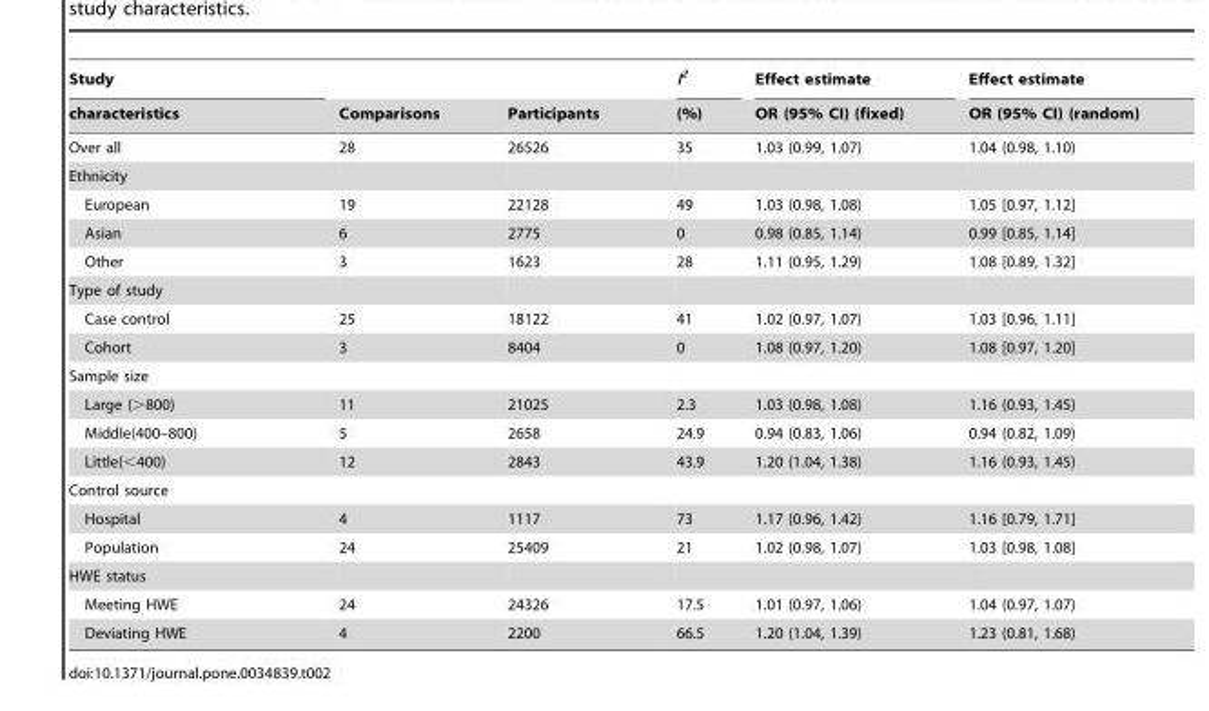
<table><thead><tr><td rowspan="2">Study characteristics</td><td rowspan="2">Comparisons</td><td rowspan="2">Participants</td><td rowspan="2">I<sup>2</sup> (%)</td><td rowspan="2">Effect estimate OR (95% CI) (fixed)</td><td rowspan="2">Effect estimate OR (95% CI) (random)</td></tr><tr></tr></thead><tbody><tr><td>Over all</td><td>28</td><td>26526</td><td>35</td><td>1.03 (0.99, 1.07)</td><td>1.04 (0.98, 1.10)</td></tr><tr><td colspan="6">Ethnicity</td></tr><tr><td>European</td><td>19</td><td>22128</td><td>49</td><td>1.03 (0.98, 1.08)</td><td>1.05 [0.97, 1.12]</td></tr><tr><td>Asian</td><td>6</td><td>2775</td><td>0</td><td>0.98 (0.85, 1.14)</td><td>0.99 [0.85, 1.14]</td></tr><tr><td>Other</td><td>3</td><td>1623</td><td>28</td><td>1.11 (0.95, 1.29)</td><td>1.08 [0.89, 1.32]</td></tr><tr><td colspan="6">Type of study</td></tr><tr><td>Case control</td><td>25</td><td>18122</td><td>41</td><td>1.02 (0.97, 1.07)</td><td>1.03 [0.96, 1.11]</td></tr><tr><td>Cohort</td><td>3</td><td>8404</td><td>0</td><td>1.08 (0.97, 1.20)</td><td>1.08 [0.97, 1.20]</td></tr><tr><td colspan="6">Sample size</td></tr><tr><td>Large (&gt;800)</td><td>11</td><td>21025</td><td>2.3</td><td>1.03 (0.98, 1.08)</td><td>1.16 (0.93, 1.45)</td></tr><tr><td>Middle(400–800)</td><td>5</td><td>2658</td><td>24.9</td><td>0.94 (0.83, 1.06)</td><td>0.94 (0.82, 1.09)</td></tr><tr><td>Little(&lt;400)</td><td>12</td><td>2843</td><td>43.9</td><td>1.20 (1.04, 1.38)</td><td>1.16 (0.93, 1.45)</td></tr><tr><td colspan="6">Control source</td></tr><tr><td>Hospital</td><td>4</td><td>1117</td><td>73</td><td>1.17 (0.96, 1.42)</td><td>1.16 [0.79, 1.71]</td></tr><tr><td>Population</td><td>24</td><td>25409</td><td>21</td><td>1.02 (0.98, 1.07)</td><td>1.03 [0.98, 1.08]</td></tr><tr><td colspan="6">HWE status</td></tr><tr><td>Meeting HWE</td><td>24</td><td>24326</td><td>17.5</td><td>1.01 (0.97, 1.06)</td><td>1.04 (0.97, 1.07)</td></tr><tr><td>Deviating HWE</td><td>4</td><td>2200</td><td>66.5</td><td>1.20 (1.04, 1.39)</td><td>1.23 (0.81, 1.68)</td></tr></tbody></table>